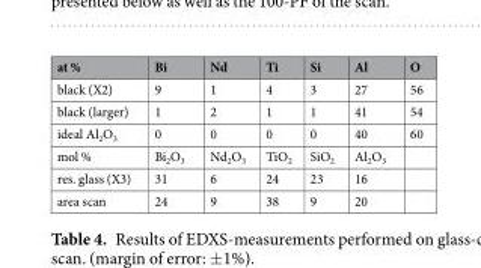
<table><thead><tr><td>at %</td><td>Bi</td><td>Nd</td><td>Ti</td><td>Si</td><td>Al</td><td>O</td></tr></thead><tbody><tr><td>black (X2)</td><td>9</td><td>1</td><td>4</td><td>3</td><td>27</td><td>56</td></tr><tr><td>black (larger)</td><td>1</td><td>2</td><td>1</td><td>1</td><td>41</td><td>54</td></tr><tr><td>ideal Al<sub>2</sub>O<sub>3</sub></td><td>0</td><td>0</td><td>0</td><td>0</td><td>40</td><td>60</td></tr><tr><td>mol %</td><td>Bi<sub>2</sub>O<sub>3</sub></td><td>Nd<sub>2</sub>O<sub>3</sub></td><td>TiO<sub>2</sub></td><td>SiO<sub>2</sub></td><td>Al<sub>2</sub>O<sub>3</sub></td><td></td></tr><tr><td>res. glass (X3)</td><td>31</td><td>6</td><td>24</td><td>23</td><td>16</td><td></td></tr><tr><td>area scan</td><td>24</td><td>9</td><td>38</td><td>9</td><td>20</td><td></td></tr></tbody></table>